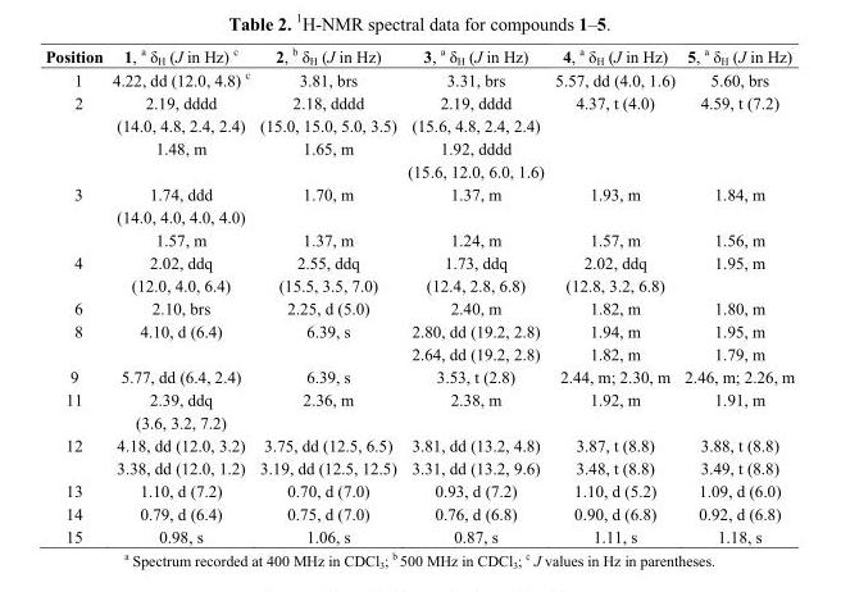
<table><thead><tr><td>Position</td><td>1, a δ<sub>H</sub> (J in Hz) c</td><td>2, b δ<sub>H</sub> (J in Hz)</td><td>3, a δ<sub>H</sub> (J in Hz)</td><td>4, a δ<sub>H</sub> (J in Hz)</td><td>5, a δ<sub>H</sub> (J in Hz)</td></tr></thead><tbody><tr><td>1</td><td>4.22, dd (12.0, 4.8) c</td><td>3.81, brs</td><td>3.31, brs</td><td>5.57, dd (4.0, 1.6)</td><td>5.60, brs</td></tr><tr><td rowspan="2">2</td><td>2.19, dddd (14.0, 4.8, 2.4, 2.4)</td><td>2.18, dddd (15.0, 15.0, 5.0, 3.5)</td><td>2.19, dddd (15.6, 4.8, 2.4, 2.4)</td><td>4.37, t (4.0)</td><td>4.59, t (7.2)</td></tr><tr><td>1.48, m</td><td>1.65, m</td><td>1.92, dddd (15.6, 12.0, 6.0, 1.6)</td><td></td><td></td></tr><tr><td rowspan="2">3</td><td>1.74, ddd (14.0, 4.0, 4.0, 4.0)</td><td>1.70, m</td><td>1.37, m</td><td>1.93, m</td><td>1.84, m</td></tr><tr><td>1.57, m</td><td>1.37, m</td><td>1.24, m</td><td>1.57, m</td><td>1.56, m</td></tr><tr><td>4</td><td>2.02, ddq (12.0, 4.0, 6.4)</td><td>2.55, ddq (15.5, 3.5, 7.0)</td><td>1.73, ddq (12.4, 2.8, 6.8)</td><td>2.02, ddq (12.8, 3.2, 6.8)</td><td>1.95, m</td></tr><tr><td>6</td><td>2.10, brs</td><td>2.25, d (5.0)</td><td>2.40, m</td><td>1.82, m</td><td>1.80, m</td></tr><tr><td rowspan="2">8</td><td>4.10, d (6.4)</td><td>6.39, s</td><td>2.80, dd (19.2, 2.8)</td><td>1.94, m</td><td>1.95, m</td></tr><tr><td></td><td></td><td>2.64, dd (19.2, 2.8)</td><td>1.82, m</td><td>1.79, m</td></tr><tr><td>9</td><td>5.77, dd (6.4, 2.4)</td><td>6.39, s</td><td>3.53, t (2.8)</td><td>2.44, m; 2.30, m</td><td>2.46, m; 2.26, m</td></tr><tr><td>11</td><td>2.39, ddq (3.6, 3.2, 7.2)</td><td>2.36, m</td><td>2.38, m</td><td>1.92, m</td><td>1.91, m</td></tr><tr><td rowspan="2">12</td><td>4.18, dd (12.0, 3.2)</td><td>3.75, dd (12.5, 6.5)</td><td>3.81, dd (13.2, 4.8)</td><td>3.87, t (8.8)</td><td>3.88, t (8.8)</td></tr><tr><td>3.38, dd (12.0, 1.2)</td><td>3.19, dd (12.5, 12.5)</td><td>3.31, dd (13.2, 9.6)</td><td>3.48, t (8.8)</td><td>3.49, t (8.8)</td></tr><tr><td>13</td><td>1.10, d (7.2)</td><td>0.70, d (7.0)</td><td>0.93, d (7.2)</td><td>1.10, d (5.2)</td><td>1.09, d (6.0)</td></tr><tr><td>14</td><td>0.79, d (6.4)</td><td>0.75, d (7.0)</td><td>0.76, d (6.8)</td><td>0.90, d (6.8)</td><td>0.92, d (6.8)</td></tr><tr><td>15</td><td>0.98, s</td><td>1.06, s</td><td>0.87, s</td><td>1.11, s</td><td>1.18, s</td></tr></tbody></table>